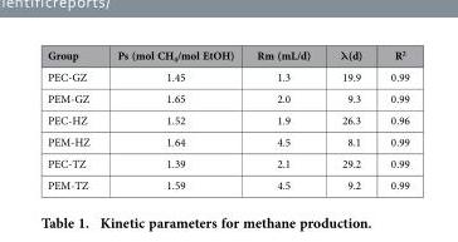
<table><thead><tr><td>Group</td><td>Ps (mol CH<sub>4</sub>/mol EtOH)</td><td>Rm (mL/d)</td><td>λ(d)</td><td>R<sup>2</sup></td></tr></thead><tbody><tr><td>PEC-GZ</td><td>1.45</td><td>1.3</td><td>19.9</td><td>0.99</td></tr><tr><td>PEM-GZ</td><td>1.65</td><td>2.0</td><td>9.3</td><td>0.99</td></tr><tr><td>PEC-HZ</td><td>1.52</td><td>1.9</td><td>26.3</td><td>0.96</td></tr><tr><td>PEM-HZ</td><td>1.64</td><td>4.5</td><td>8.1</td><td>0.99</td></tr><tr><td>PEC-TZ</td><td>1.39</td><td>2.1</td><td>29.2</td><td>0.99</td></tr><tr><td>PEM-TZ</td><td>1.59</td><td>4.5</td><td>9.2</td><td>0.99</td></tr></tbody></table>